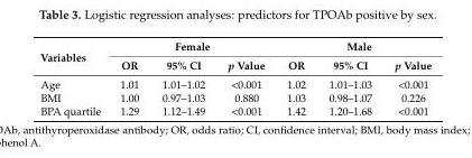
<table><thead><tr><td rowspan="2">Variables</td><td colspan="3">Female</td><td colspan="3">Male</td></tr><tr><td>OR</td><td>95% CI</td><td>p Value</td><td>OR</td><td>95% CI</td><td>p Value</td></tr></thead><tbody><tr><td>Age</td><td>1.01</td><td>1.01–1.02</td><td>&lt;0.001</td><td>1.02</td><td>1.01–1.03</td><td>&lt;0.001</td></tr><tr><td>BMI</td><td>1.00</td><td>0.97–1.03</td><td>0.880</td><td>1.03</td><td>0.98–1.07</td><td>0.226</td></tr><tr><td>BPA quartile</td><td>1.29</td><td>1.12–1.49</td><td>&lt;0.001</td><td>1.42</td><td>1.20–1.68</td><td>&lt;0.001</td></tr></tbody></table>